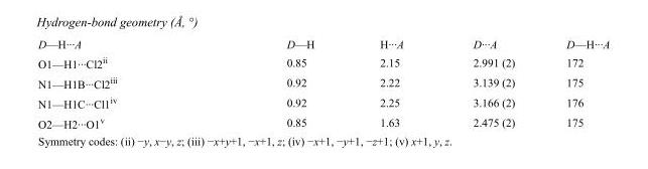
<table><tbody><tr><td>D—H···A</td><td>D—H</td><td>H···A</td><td>D···A</td><td>D—H···A</td></tr><tr><td>O1—H1···Cl2<sup>ii</sup></td><td>0.85</td><td>2.15</td><td>2.991 (2)</td><td>172</td></tr><tr><td>N1—H1B···Cl2<sup>iii</sup></td><td>0.92</td><td>2.22</td><td>3.139 (2)</td><td>175</td></tr><tr><td>N1—H1C···Cl1<sup>iv</sup></td><td>0.92</td><td>2.25</td><td>3.166 (2)</td><td>176</td></tr><tr><td>O2—H2···O1<sup>v</sup></td><td>0.85</td><td>1.63</td><td>2.475 (2)</td><td>175</td></tr></tbody></table>